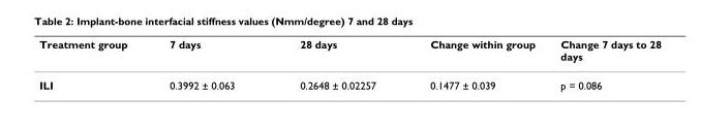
<table><thead><tr><td>Treatment group</td><td>7 days</td><td>28 days</td><td>Change within group</td><td>Change 7 days to 28 days</td></tr></thead><tbody><tr><td>ILI</td><td>0.3992 ± 0.063</td><td>0.2648 ± 0.02257</td><td>0.1477 ± 0.039</td><td>p = 0.086</td></tr></tbody></table>